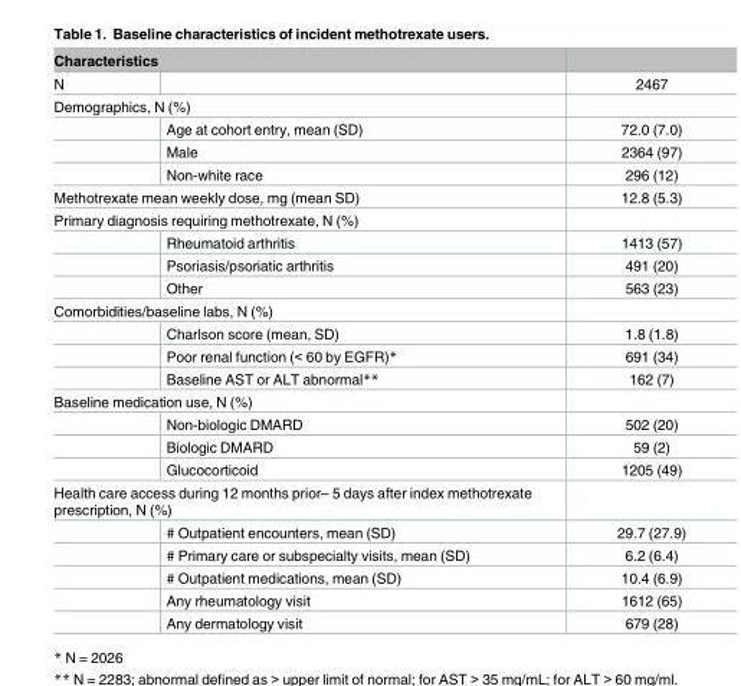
<table><thead><tr><td colspan="2">Characteristics</td><td rowspan="2">2467</td></tr><tr><td>N</td><td></td></tr></thead><tbody><tr><td colspan="3">Demographics, N (%)</td></tr><tr><td></td><td>Age at cohort entry, mean (SD)</td><td>72.0 (7.0)</td></tr><tr><td></td><td>Male</td><td>2364 (97)</td></tr><tr><td></td><td>Non-white race</td><td>296 (12)</td></tr><tr><td colspan="2">Methotrexate mean weekly dose, mg (mean SD)</td><td>12.8 (5.3)</td></tr><tr><td colspan="3">Primary diagnosis requiring methotrexate, N (%)</td></tr><tr><td></td><td>Rheumatoid arthritis</td><td>1413 (57)</td></tr><tr><td></td><td>Psoriasis/psoriatic arthritis</td><td>491 (20)</td></tr><tr><td></td><td>Other</td><td>563 (23)</td></tr><tr><td colspan="3">Comorbidities/baseline labs, N (%)</td></tr><tr><td></td><td>Charlson score (mean, SD)</td><td>1.8 (1.8)</td></tr><tr><td></td><td>Poor renal function (&lt; 60 by EGFR)*</td><td>691 (34)</td></tr><tr><td></td><td>Baseline AST or ALT abnormal**</td><td>162 (7)</td></tr><tr><td colspan="3">Baseline medication use, N (%)</td></tr><tr><td></td><td>Non-biologic DMARD</td><td>502 (20)</td></tr><tr><td></td><td>Biologic DMARD</td><td>59 (2)</td></tr><tr><td></td><td>Glucocorticoid</td><td>1205 (49)</td></tr><tr><td colspan="3">Health care access during 12 months prior– 5 days after index methotrexate prescription, N (%)</td></tr><tr><td></td><td># Outpatient encounters, mean (SD)</td><td>29.7 (27.9)</td></tr><tr><td></td><td># Primary care or subspecialty visits, mean (SD)</td><td>6.2 (6.4)</td></tr><tr><td></td><td># Outpatient medications, mean (SD)</td><td>10.4 (6.9)</td></tr><tr><td></td><td>Any rheumatology visit</td><td>1612 (65)</td></tr><tr><td></td><td>Any dermatology visit</td><td>679 (28)</td></tr></tbody></table>